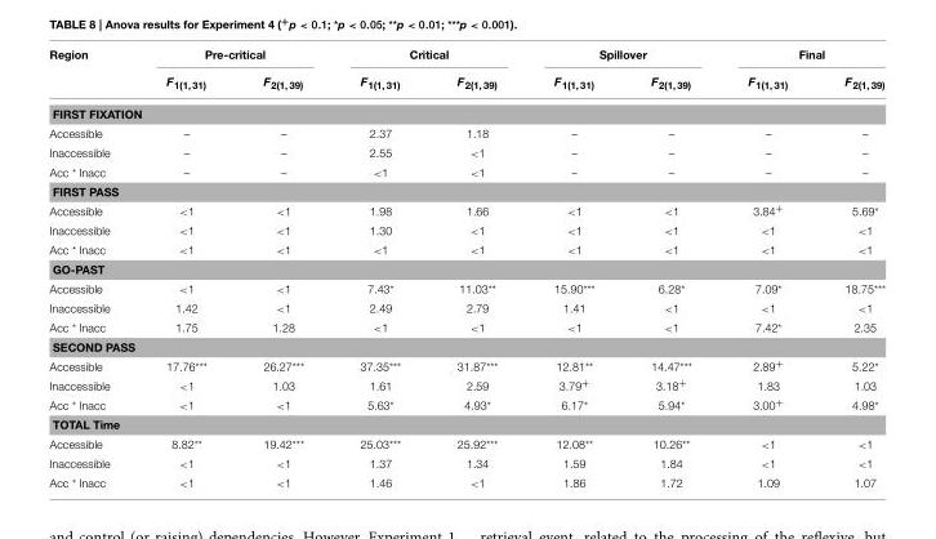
<table><thead><tr><td rowspan="2">Region</td><td colspan="2">Pre-critical</td><td colspan="2">Critical</td><td colspan="2">Spillover</td><td colspan="2">Final</td></tr><tr><td>F<sub>1(1, 31)</sub></td><td>F<sub>2(1, 39)</sub></td><td>F<sub>1(1, 31)</sub></td><td>F<sub>2(1, 39)</sub></td><td>F<sub>1(1, 31)</sub></td><td>F<sub>2(1, 39)</sub></td><td>F<sub>1(1, 31)</sub></td><td>F<sub>2(1, 39)</sub></td></tr></thead><tbody><tr><td colspan="9">FIRST FIXATION</td></tr><tr><td>Accessible</td><td>–</td><td>–</td><td>2.37</td><td>1.18</td><td>–</td><td>–</td><td>–</td><td>–</td></tr><tr><td>Inaccessible</td><td>–</td><td>–</td><td>2.55</td><td>&lt;1</td><td>–</td><td>–</td><td>–</td><td>–</td></tr><tr><td>Acc * Inacc</td><td>–</td><td>–</td><td>&lt;1</td><td>&lt;1</td><td>–</td><td>–</td><td>–</td><td>–</td></tr><tr><td colspan="9">FIRST PASS</td></tr><tr><td>Accessible</td><td>&lt;1</td><td>&lt;1</td><td>1.98</td><td>1.66</td><td>&lt;1</td><td>&lt;1</td><td>3.84<sup>+</sup></td><td>5.69*</td></tr><tr><td>Inaccessible</td><td>&lt;1</td><td>&lt;1</td><td>1.30</td><td>&lt;1</td><td>&lt;1</td><td>&lt;1</td><td>&lt;1</td><td>&lt;1</td></tr><tr><td>Acc * Inacc</td><td>&lt;1</td><td>&lt;1</td><td>&lt;1</td><td>&lt;1</td><td>&lt;1</td><td>&lt;1</td><td>&lt;1</td><td>&lt;1</td></tr><tr><td colspan="9">GO-PAST</td></tr><tr><td>Accessible</td><td>&lt;1</td><td>&lt;1</td><td>7.43*</td><td>11.03**</td><td>15.90***</td><td>6.28*</td><td>7.09*</td><td>18.75***</td></tr><tr><td>Inaccessible</td><td>1.42</td><td>&lt;1</td><td>2.49</td><td>2.79</td><td>1.41</td><td>&lt;1</td><td>&lt;1</td><td>&lt;1</td></tr><tr><td>Acc * Inacc</td><td>1.75</td><td>1.28</td><td>&lt;1</td><td>&lt;1</td><td>&lt;1</td><td>&lt;1</td><td>7.42*</td><td>2.35</td></tr><tr><td colspan="9">SECOND PASS</td></tr><tr><td>Accessible</td><td>17.76***</td><td>26.27***</td><td>37.35***</td><td>31.87***</td><td>12.81**</td><td>14.47***</td><td>2.89<sup>+</sup></td><td>5.22*</td></tr><tr><td>Inaccessible</td><td>&lt;1</td><td>1.03</td><td>1.61</td><td>2.59</td><td>3.79<sup>+</sup></td><td>3.18<sup>+</sup></td><td>1.83</td><td>1.03</td></tr><tr><td>Acc * Inacc</td><td>&lt;1</td><td>&lt;1</td><td>5.63*</td><td>4.93*</td><td>6.17*</td><td>5.94*</td><td>3.00<sup>+</sup></td><td>4.98*</td></tr><tr><td colspan="9">TOTAL Time</td></tr><tr><td>Accessible</td><td>8.82**</td><td>19.42***</td><td>25.03***</td><td>25.92***</td><td>12.08**</td><td>10.26**</td><td>&lt;1</td><td>&lt;1</td></tr><tr><td>Inaccessible</td><td>&lt;1</td><td>&lt;1</td><td>1.37</td><td>1.34</td><td>1.59</td><td>1.84</td><td>&lt;1</td><td>&lt;1</td></tr><tr><td>Acc * Inacc</td><td>&lt;1</td><td>&lt;1</td><td>1.46</td><td>&lt;1</td><td>1.86</td><td>1.72</td><td>1.09</td><td>1.07</td></tr></tbody></table>